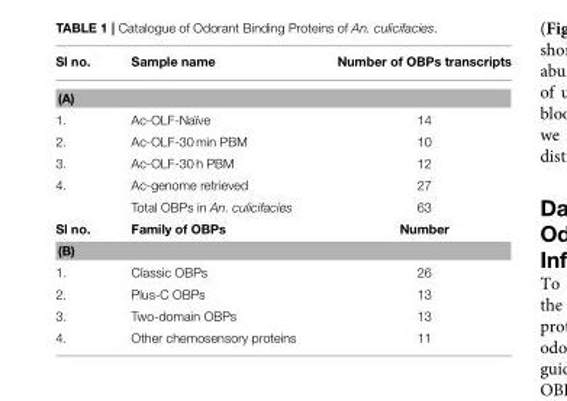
<table><thead><tr><td>Sl no.</td><td>Sample name</td><td>Number of OBPs transcripts</td></tr></thead><tbody><tr><td colspan="3">(A)</td></tr><tr><td>1.</td><td>Ac-OLF-Naïve</td><td>14</td></tr><tr><td>2.</td><td>Ac-OLF-30 min PBM</td><td>10</td></tr><tr><td>3.</td><td>Ac-OLF-30 h PBM</td><td>12</td></tr><tr><td rowspan="2">4.</td><td>Ac-genome retrieved</td><td>27</td></tr><tr><td>Total OBPs in An. culicifacies</td><td>63</td></tr><tr><td>Sl no.</td><td>Family of OBPs</td><td>Number</td></tr><tr><td colspan="3">(B)</td></tr><tr><td>1.</td><td>Classic OBPs</td><td>26</td></tr><tr><td>2.</td><td>Plus-C OBPs</td><td>13</td></tr><tr><td>3.</td><td>Two-domain OBPs</td><td>13</td></tr><tr><td>4.</td><td>Other chemosensory proteins</td><td>11</td></tr></tbody></table>